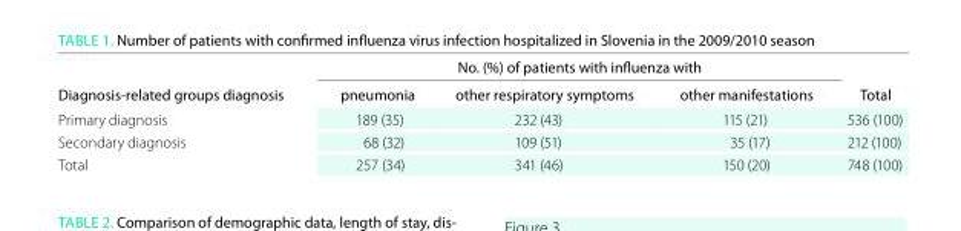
<table><thead><tr><td rowspan="2">diagnosis-related groups diagnosis</td><td colspan="3">No. (%) of patients with influenza with</td><td rowspan="2">total</td></tr><tr><td>pneumonia</td><td>other respiratory symptoms</td><td>other manifestations</td></tr></thead><tbody><tr><td>Primary diagnosis</td><td>189 (35)</td><td>232 (43)</td><td>115 (21)</td><td>536 (100)</td></tr><tr><td>Secondary diagnosis</td><td>68 (32)</td><td>109 (51)</td><td>35 (17)</td><td>212 (100)</td></tr><tr><td>Total</td><td>257 (34)</td><td>341 (46)</td><td>150 (20)</td><td>748 (100)</td></tr></tbody></table>